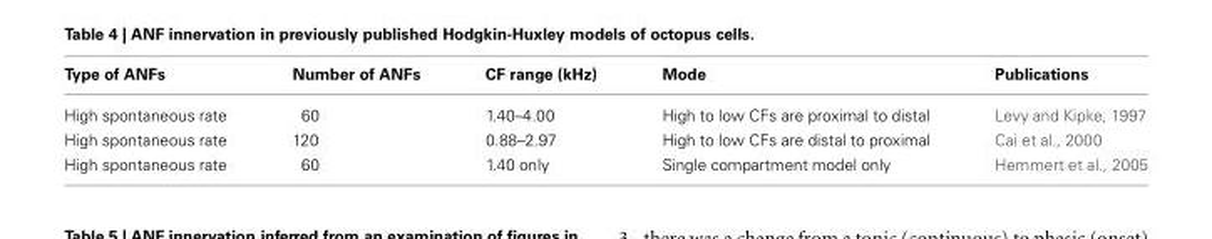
<table><thead><tr><td>Type of ANFs</td><td>Number of ANFs</td><td>CF range (kHz)</td><td>Mode</td><td>Publications</td></tr></thead><tbody><tr><td>High spontaneous rate</td><td>60</td><td>1.40–4.00</td><td>High to low CFs are proximal to distal</td><td>Levy and Kipke, 1997</td></tr><tr><td>High spontaneous rate</td><td>120</td><td>0.88–2.97</td><td>High to low CFs are distal to proximal</td><td>Cai et al., 2000</td></tr><tr><td>High spontaneous rate</td><td>60</td><td>1.40 only</td><td>Single compartment model only</td><td>Hemmert et al., 2005</td></tr></tbody></table>